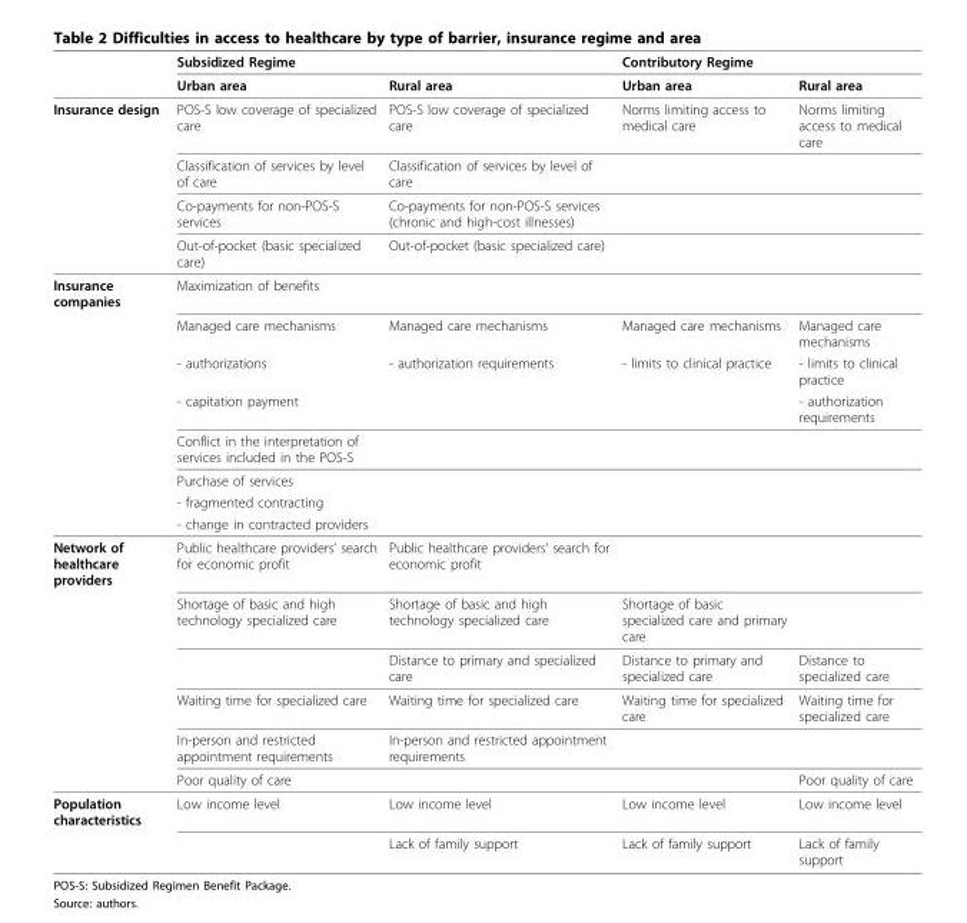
<table><thead><tr><td rowspan="2"></td><td colspan="2">Subsidized Regime</td><td colspan="2">Contributory Regime</td></tr><tr><td>Urban area</td><td>Rural area</td><td>Urban area</td><td>Rural area</td></tr></thead><tbody><tr><td rowspan="4">Insurance design</td><td>POS-S low coverage of specialized care</td><td>POS-S low coverage of specialized care</td><td>Norms limiting access to medical care</td><td>Norms limiting access to medical care</td></tr><tr><td>Classification of services by level of care</td><td>Classification of services by level of care</td><td></td><td></td></tr><tr><td>Co-payments for non-POS-S services</td><td>Co-payments for non-POS-S services (chronic and high-cost illnesses)</td><td></td><td></td></tr><tr><td>Out-of-pocket (basic specialized care)</td><td>Out-of-pocket (basic specialized care)</td><td></td><td></td></tr><tr><td rowspan="8">Insurance companies</td><td>Maximization of benefits</td><td></td><td></td><td></td></tr><tr><td>Managed care mechanisms</td><td>Managed care mechanisms</td><td>Managed care mechanisms</td><td>Managed care mechanisms</td></tr><tr><td>- authorizations</td><td>- authorization requirements</td><td>- limits to clinical practice</td><td>- limits to clinical practice</td></tr><tr><td>- capitation payment</td><td></td><td></td><td>- authorization requirements</td></tr><tr><td>Conflict in the interpretation of services included in the POS-S</td><td></td><td></td><td></td></tr><tr><td>Purchase of services</td><td></td><td></td><td></td></tr><tr><td>- fragmented contracting</td><td></td><td></td><td></td></tr><tr><td>- change in contracted providers</td><td></td><td></td><td></td></tr><tr><td rowspan="6">Network of healthcare providers</td><td>Public healthcare providers’ search for economic profit</td><td>Public healthcare providers’ search for economic profit</td><td></td><td></td></tr><tr><td>Shortage of basic and high technology specialized care</td><td>Shortage of basic and high technology specialized care</td><td>Shortage of basic specialized care and primary care</td><td></td></tr><tr><td></td><td>Distance to primary and specialized care</td><td>Distance to primary and specialized care</td><td>Distance to specialized care</td></tr><tr><td>Waiting time for specialized care</td><td>Waiting time for specialized care</td><td>Waiting time for specialized care</td><td>Waiting time for specialized care</td></tr><tr><td>In-person and restricted appointment requirements</td><td>In-person and restricted appointment requirements</td><td></td><td></td></tr><tr><td>Poor quality of care</td><td></td><td></td><td>Poor quality of care</td></tr><tr><td rowspan="2">Population characteristics</td><td>Low income level</td><td>Low income level</td><td>Low income level</td><td>Low income level</td></tr><tr><td></td><td>Lack of family support</td><td>Lack of family support</td><td>Lack of family support</td></tr></tbody></table>